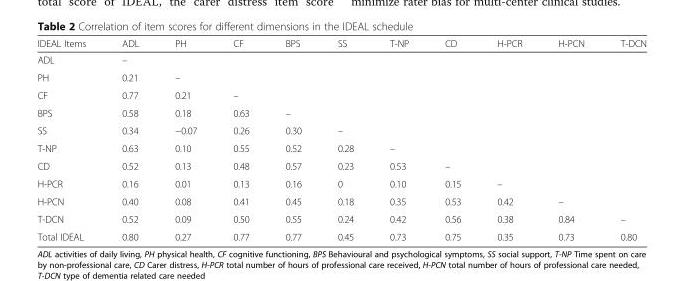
<table><thead><tr><td>IDEAL Items</td><td>ADL</td><td>PH</td><td>CF</td><td>BPS</td><td>SS</td><td>T-NP</td><td>CD</td><td>H-PCR</td><td>H-PCN</td><td>T-DCN</td></tr></thead><tbody><tr><td>ADL</td><td>–</td><td></td><td></td><td></td><td></td><td></td><td></td><td></td><td></td><td></td></tr><tr><td>PH</td><td>0.21</td><td>–</td><td></td><td></td><td></td><td></td><td></td><td></td><td></td><td></td></tr><tr><td>CF</td><td>0.77</td><td>0.21</td><td>–</td><td></td><td></td><td></td><td></td><td></td><td></td><td></td></tr><tr><td>BPS</td><td>0.58</td><td>0.18</td><td>0.63</td><td>–</td><td></td><td></td><td></td><td></td><td></td><td></td></tr><tr><td>SS</td><td>0.34</td><td>−0.07</td><td>0.26</td><td>0.30</td><td>–</td><td></td><td></td><td></td><td></td><td></td></tr><tr><td>T-NP</td><td>0.63</td><td>0.10</td><td>0.55</td><td>0.52</td><td>0.28</td><td>–</td><td></td><td></td><td></td><td></td></tr><tr><td>CD</td><td>0.52</td><td>0.13</td><td>0.48</td><td>0.57</td><td>0.23</td><td>0.53</td><td>–</td><td></td><td></td><td></td></tr><tr><td>H-PCR</td><td>0.16</td><td>0.01</td><td>0.13</td><td>0.16</td><td>0</td><td>0.10</td><td>0.15</td><td>–</td><td></td><td></td></tr><tr><td>H-PCN</td><td>0.40</td><td>0.08</td><td>0.41</td><td>0.45</td><td>0.18</td><td>0.35</td><td>0.53</td><td>0.42</td><td>–</td><td></td></tr><tr><td>T-DCN</td><td>0.52</td><td>0.09</td><td>0.50</td><td>0.55</td><td>0.24</td><td>0.42</td><td>0.56</td><td>0.38</td><td>0.84</td><td>–</td></tr><tr><td>Total IDEAL</td><td>0.80</td><td>0.27</td><td>0.77</td><td>0.77</td><td>0.45</td><td>0.73</td><td>0.75</td><td>0.35</td><td>0.73</td><td>0.80</td></tr></tbody></table>